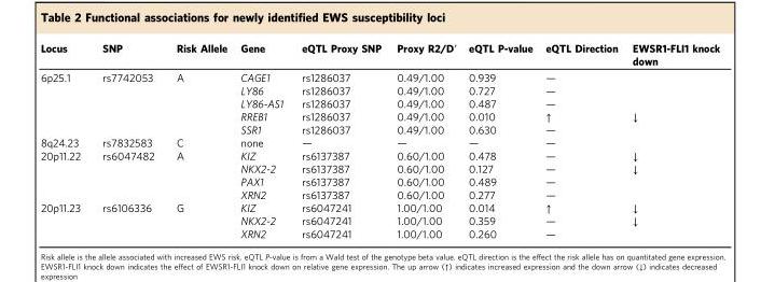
<table><thead><tr><td>Locus</td><td>SNP</td><td>Risk Allele</td><td>Gene</td><td>eQTL Proxy SNP</td><td>Proxy R2/D′</td><td>eQTL P-value</td><td>eQTL Direction</td><td>EWSR1-FLI1 knock down</td></tr></thead><tbody><tr><td rowspan="5">6p25.1</td><td>rs7742053</td><td>A</td><td>CAGE1</td><td>rs1286037</td><td>0.49/1.00</td><td>0.939</td><td>—</td><td></td></tr><tr><td></td><td></td><td>LY86</td><td>rs1286037</td><td>0.49/1.00</td><td>0.727</td><td>—</td><td></td></tr><tr><td></td><td></td><td>LY86-AS1</td><td>rs1286037</td><td>0.49/1.00</td><td>0.487</td><td>—</td><td></td></tr><tr><td></td><td></td><td>RREB1</td><td>rs1286037</td><td>0.49/1.00</td><td>0.010</td><td>↑</td><td>↓</td></tr><tr><td></td><td></td><td>SSR1</td><td>rs1286037</td><td>0.49/1.00</td><td>0.630</td><td>—</td><td></td></tr><tr><td>8q24.23</td><td>rs7832583</td><td>C</td><td>none</td><td>—</td><td>—</td><td>—</td><td>—</td><td></td></tr><tr><td rowspan="4">20p11.22</td><td>rs6047482</td><td>A</td><td>KIZ</td><td>rs6137387</td><td>0.60/1.00</td><td>0.478</td><td>—</td><td>↓</td></tr><tr><td></td><td></td><td>NKX2-2</td><td>rs6137387</td><td>0.60/1.00</td><td>0.127</td><td>—</td><td>↓</td></tr><tr><td></td><td></td><td>PAX1</td><td>rs6137387</td><td>0.60/1.00</td><td>0.489</td><td>—</td><td></td></tr><tr><td></td><td></td><td>XRN2</td><td>rs6137387</td><td>0.60/1.00</td><td>0.277</td><td>—</td><td></td></tr><tr><td rowspan="3">20p11.23</td><td>rs6106336</td><td>G</td><td>KIZ</td><td>rs6047241</td><td>1.00/1.00</td><td>0.014</td><td>↑</td><td>↓</td></tr><tr><td></td><td></td><td>NKX2-2</td><td>rs6047241</td><td>1.00/1.00</td><td>0.359</td><td>—</td><td>↓</td></tr><tr><td></td><td></td><td>XRN2</td><td>rs6047241</td><td>1.00/1.00</td><td>0.260</td><td>—</td><td></td></tr></tbody></table>